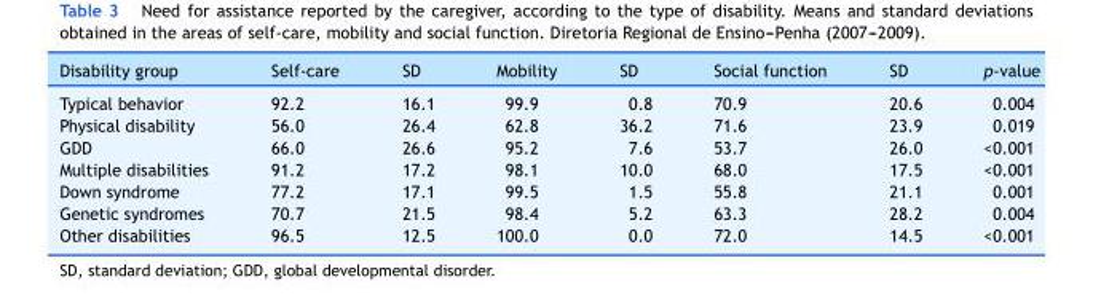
<table><thead><tr><td>Disability group</td><td>Self-care</td><td>SD</td><td>Mobility</td><td>SD</td><td>Social function</td><td>SD</td><td>p-value</td></tr></thead><tbody><tr><td>Typical behavior</td><td>92.2</td><td>16.1</td><td>99.9</td><td>0.8</td><td>70.9</td><td>20.6</td><td>0.004</td></tr><tr><td>Physical disability</td><td>56.0</td><td>26.4</td><td>62.8</td><td>36.2</td><td>71.6</td><td>23.9</td><td>0.019</td></tr><tr><td>GDD</td><td>66.0</td><td>26.6</td><td>95.2</td><td>7.6</td><td>53.7</td><td>26.0</td><td>&lt;0.001</td></tr><tr><td>Multiple disabilities</td><td>91.2</td><td>17.2</td><td>98.1</td><td>10.0</td><td>68.0</td><td>17.5</td><td>&lt;0.001</td></tr><tr><td>Down syndrome</td><td>77.2</td><td>17.1</td><td>99.5</td><td>1.5</td><td>55.8</td><td>21.1</td><td>0.001</td></tr><tr><td>Genetic syndromes</td><td>70.7</td><td>21.5</td><td>98.4</td><td>5.2</td><td>63.3</td><td>28.2</td><td>0.004</td></tr><tr><td>Other disabilities</td><td>96.5</td><td>12.5</td><td>100.0</td><td>0.0</td><td>72.0</td><td>14.5</td><td>&lt;0.001</td></tr></tbody></table>